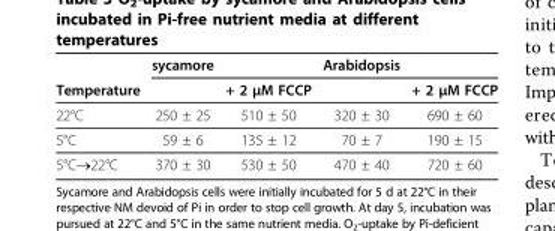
<table><thead><tr><td rowspan="2">Temperature</td><td rowspan="2">sycamore</td><td rowspan="2">+ 2 μM FCCP</td><td rowspan="2">Arabidopsis</td><td rowspan="2">+ 2 μM FCCP</td></tr><tr></tr></thead><tbody><tr><td>22°C</td><td>250 ± 25</td><td>510 ± 50</td><td>320 ± 30</td><td>690 ± 60</td></tr><tr><td>5°C</td><td>59 ± 6</td><td>135 ± 12</td><td>70 ± 7</td><td>190 ± 15</td></tr><tr><td>5°C→22°C</td><td>370 ± 30</td><td>530 ± 50</td><td>470 ± 40</td><td>720 ± 60</td></tr></tbody></table>